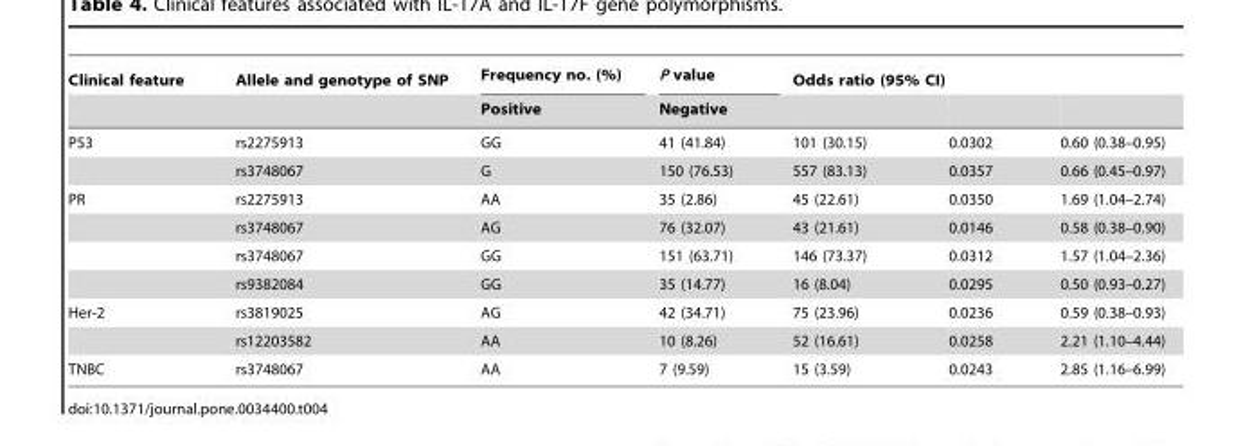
<table><thead><tr><td rowspan="2">Clinical feature</td><td rowspan="2">Allele and genotype of SNP</td><td rowspan="2">Frequency no. (%) Positive</td><td rowspan="2">P value Negative</td><td rowspan="2">Odds ratio (95% CI)</td><td rowspan="2"></td><td rowspan="2"></td></tr><tr></tr></thead><tbody><tr><td rowspan="2">P53</td><td>rs2275913</td><td>GG</td><td>41 (41.84)</td><td>101 (30.15)</td><td>0.0302</td><td>0.60 (0.38–0.95)</td></tr><tr><td>rs3748067</td><td>G</td><td>150 (76.53)</td><td>557 (83.13)</td><td>0.0357</td><td>0.66 (0.45–0.97)</td></tr><tr><td rowspan="4">PR</td><td>rs2275913</td><td>AA</td><td>35 (2.86)</td><td>45 (22.61)</td><td>0.0350</td><td>1.69 (1.04–2.74)</td></tr><tr><td>rs3748067</td><td>AG</td><td>76 (32.07)</td><td>43 (21.61)</td><td>0.0146</td><td>0.58 (0.38–0.90)</td></tr><tr><td>rs3748067</td><td>GG</td><td>151 (63.71)</td><td>146 (73.37)</td><td>0.0312</td><td>1.57 (1.04–2.36)</td></tr><tr><td>rs9382084</td><td>GG</td><td>35 (14.77)</td><td>16 (8.04)</td><td>0.0295</td><td>0.50 (0.93–0.27)</td></tr><tr><td rowspan="2">Her-2</td><td>rs3819025</td><td>AG</td><td>42 (34.71)</td><td>75 (23.96)</td><td>0.0236</td><td>0.59 (0.38–0.93)</td></tr><tr><td>rs12203582</td><td>AA</td><td>10 (8.26)</td><td>52 (16.61)</td><td>0.0258</td><td>2.21 (1.10–4.44)</td></tr><tr><td>TNBC</td><td>rs3748067</td><td>AA</td><td>7 (9.59)</td><td>15 (3.59)</td><td>0.0243</td><td>2.85 (1.16–6.99)</td></tr></tbody></table>